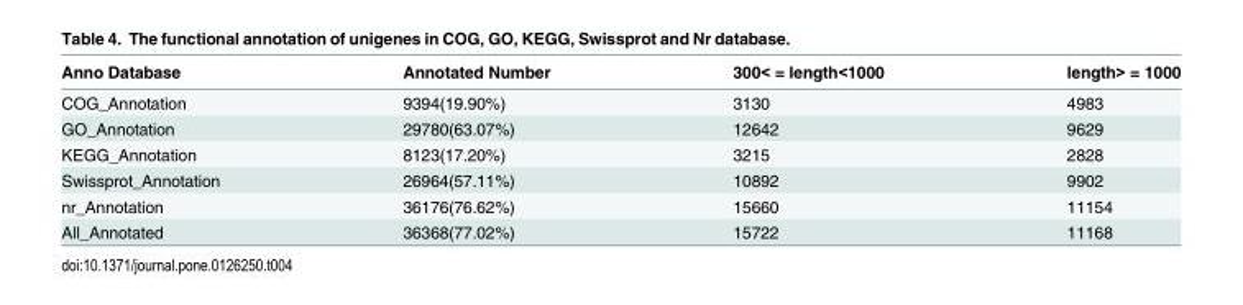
<table><thead><tr><td>Anno Database</td><td>Annotated Number</td><td>300&lt; = length&lt;1000</td><td>length&gt; = 1000</td></tr></thead><tbody><tr><td>COG_Annotation</td><td>9394(19.90%)</td><td>3130</td><td>4983</td></tr><tr><td>GO_Annotation</td><td>29780(63.07%)</td><td>12642</td><td>9629</td></tr><tr><td>KEGG_Annotation</td><td>8123(17.20%)</td><td>3215</td><td>2828</td></tr><tr><td>Swissprot_Annotation</td><td>26964(57.11%)</td><td>10892</td><td>9902</td></tr><tr><td>nr_Annotation</td><td>36176(76.62%)</td><td>15660</td><td>11154</td></tr><tr><td>All_Annotated</td><td>36368(77.02%)</td><td>15722</td><td>11168</td></tr></tbody></table>